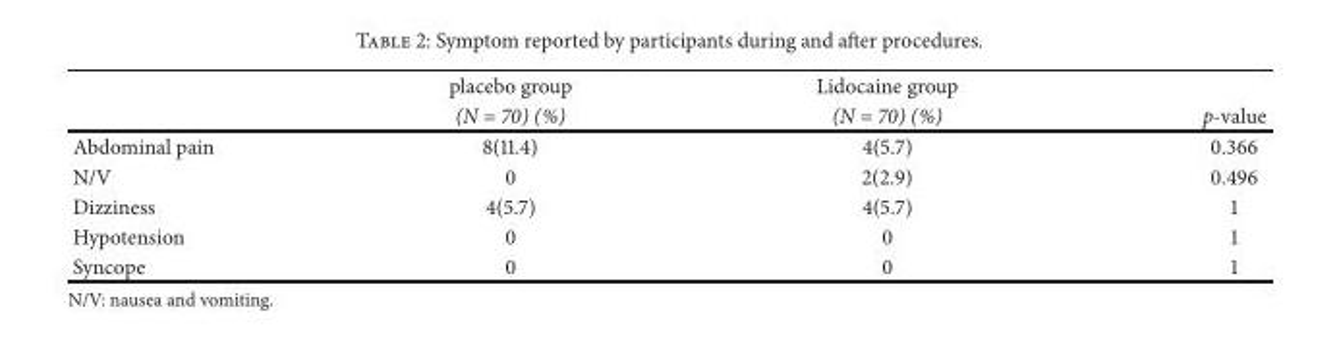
<table><thead><tr><td rowspan="2"></td><td rowspan="2">placebo group (N = 70) (%)</td><td rowspan="2">Lidocaine group (N = 70) (%)</td><td rowspan="2">p-value</td></tr><tr></tr></thead><tbody><tr><td>Abdominal pain</td><td>8(11.4)</td><td>4(5.7)</td><td>0.366</td></tr><tr><td>N/V</td><td>0</td><td>2(2.9)</td><td>0.496</td></tr><tr><td>Dizziness</td><td>4(5.7)</td><td>4(5.7)</td><td>1</td></tr><tr><td>Hypotension</td><td>0</td><td>0</td><td>1</td></tr><tr><td>Syncope</td><td>0</td><td>0</td><td>1</td></tr></tbody></table>